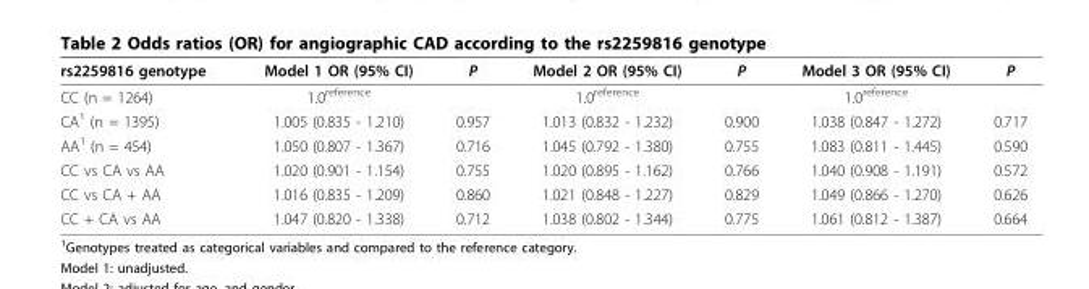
<table><thead><tr><td>rs2259816 genotype</td><td>Model 1 OR (95% CI)</td><td>P</td><td>Model 2 OR (95% CI)</td><td>P</td><td>Model 3 OR (95% CI)</td><td>P</td></tr></thead><tbody><tr><td>CC (n = 1264)</td><td>1.0<sup>reference</sup></td><td></td><td>1.0<sup>reference</sup></td><td></td><td>1.0<sup>reference</sup></td><td></td></tr><tr><td>CA<sup>1</sup> (n = 1395)</td><td>1.005 (0.835 - 1.210)</td><td>0.957</td><td>1.013 (0.832 - 1.232)</td><td>0.900</td><td>1.038 (0.847 - 1.272)</td><td>0.717</td></tr><tr><td>AA<sup>1</sup> (n = 454)</td><td>1.050 (0.807 - 1.367)</td><td>0.716</td><td>1.045 (0.792 - 1.380)</td><td>0.755</td><td>1.083 (0.811 - 1.445)</td><td>0.590</td></tr><tr><td>CC vs CA vs AA</td><td>1.020 (0.901 - 1.154)</td><td>0.755</td><td>1.020 (0.895 - 1.162)</td><td>0.766</td><td>1.040 (0.908 - 1.191)</td><td>0.572</td></tr><tr><td>CC vs CA + AA</td><td>1.016 (0.835 - 1.209)</td><td>0.860</td><td>1.021 (0.848 - 1.227)</td><td>0.829</td><td>1.049 (0.866 - 1.270)</td><td>0.626</td></tr><tr><td>CC + CA vs AA</td><td>1.047 (0.820 - 1.338)</td><td>0.712</td><td>1.038 (0.802 - 1.344)</td><td>0.775</td><td>1.061 (0.812 - 1.387)</td><td>0.664</td></tr></tbody></table>